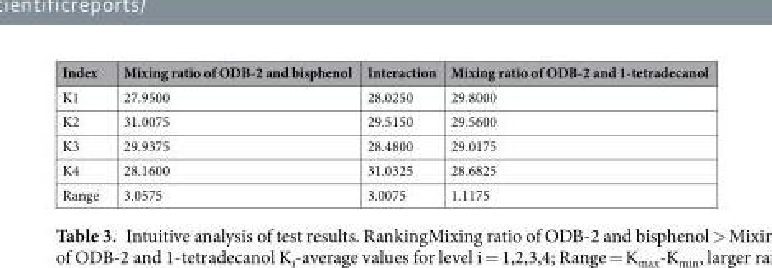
<table><thead><tr><td>Index</td><td>Mixing ratio of ODB-2 and bisphenol</td><td>Interaction</td><td>Mixing ratio of ODB-2 and 1-tetradecanol</td></tr></thead><tbody><tr><td>K1</td><td>27.9500</td><td>28.0250</td><td>29.8000</td></tr><tr><td>K2</td><td>31.0075</td><td>29.5150</td><td>29.5600</td></tr><tr><td>K3</td><td>29.9375</td><td>28.4800</td><td>29.0175</td></tr><tr><td>K4</td><td>28.1600</td><td>31.0325</td><td>28.6825</td></tr><tr><td>Range</td><td>3.0575</td><td>3.0075</td><td>1.1175</td></tr></tbody></table>